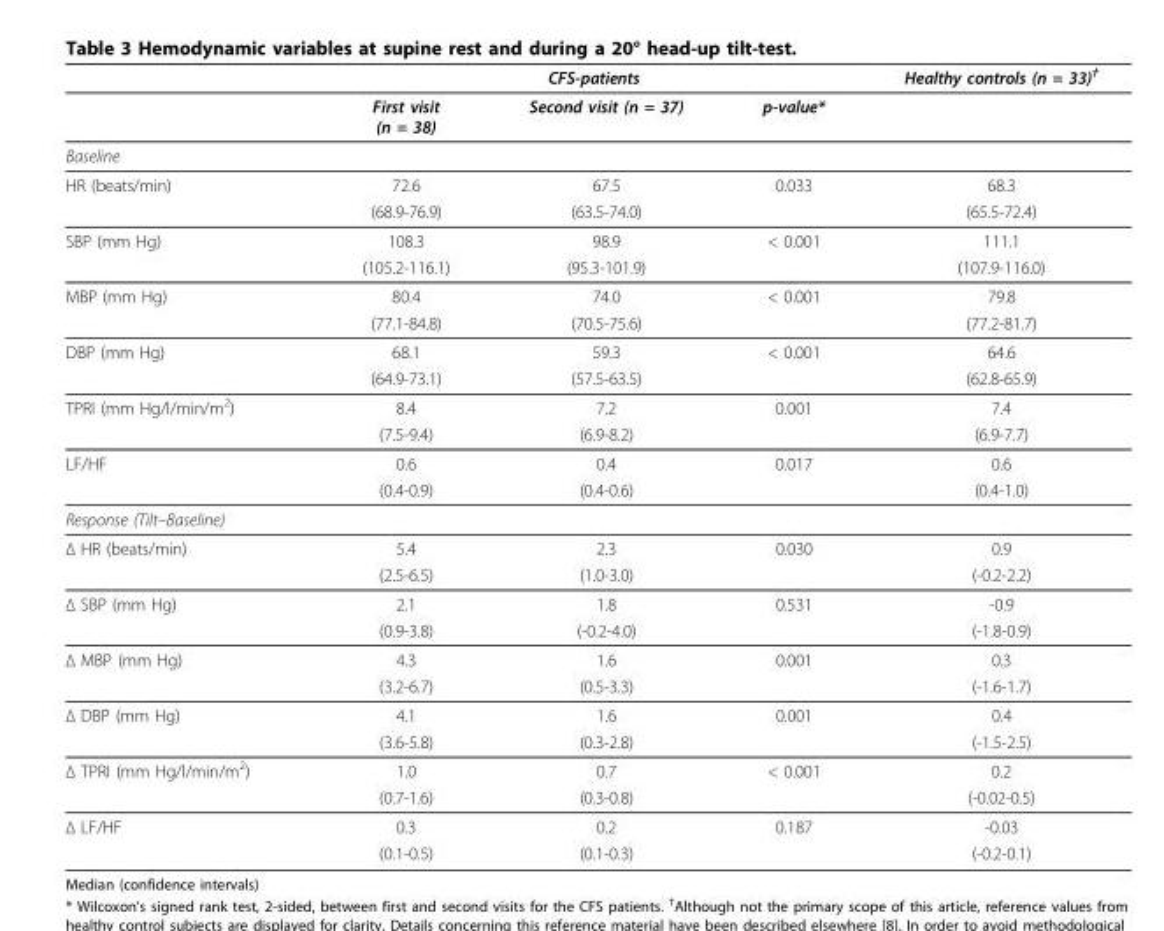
<table><thead><tr><td rowspan="2"></td><td colspan="3">CFS-patients</td><td rowspan="2">Healthy controls (n = 33)<sup>†</sup></td></tr><tr><td>First visit (n = 38)</td><td>Second visit (n = 37)</td><td>p-value*</td></tr></thead><tbody><tr><td colspan="5">Baseline</td></tr><tr><td rowspan="2">HR (beats/min)</td><td>72.6</td><td>67.5</td><td>0.033</td><td>68.3</td></tr><tr><td>(68.9-76.9)</td><td>(63.5-74.0)</td><td></td><td>(65.5-72.4)</td></tr><tr><td rowspan="2">SBP (mm Hg)</td><td>108.3</td><td>98.9</td><td>&lt; 0.001</td><td>111.1</td></tr><tr><td>(105.2-116.1)</td><td>(95.3-101.9)</td><td></td><td>(107.9-116.0)</td></tr><tr><td rowspan="2">MBP (mm Hg)</td><td>80.4</td><td>74.0</td><td>&lt; 0.001</td><td>79.8</td></tr><tr><td>(77.1-84.8)</td><td>(70.5-75.6)</td><td></td><td>(77.2-81.7)</td></tr><tr><td rowspan="2">DBP (mm Hg)</td><td>68.1</td><td>59.3</td><td>&lt; 0.001</td><td>64.6</td></tr><tr><td>(64.9-73.1)</td><td>(57.5-63.5)</td><td></td><td>(62.8-65.9)</td></tr><tr><td rowspan="2">TPRI (mm Hg/l/min/m<sup>2</sup>)</td><td>8.4</td><td>7.2</td><td>0.001</td><td>7.4</td></tr><tr><td>(7.5-9.4)</td><td>(6.9-8.2)</td><td></td><td>(6.9-7.7)</td></tr><tr><td rowspan="2">LF/HF</td><td>0.6</td><td>0.4</td><td>0.017</td><td>0.6</td></tr><tr><td>(0.4-0.9)</td><td>(0.4-0.6)</td><td></td><td>(0.4-1.0)</td></tr><tr><td colspan="5">Response (Tilt–Baseline)</td></tr><tr><td rowspan="2">Δ HR (beats/min)</td><td>5.4</td><td>2.3</td><td>0.030</td><td>0.9</td></tr><tr><td>(2.5-6.5)</td><td>(1.0-3.0)</td><td></td><td>(-0.2-2.2)</td></tr><tr><td rowspan="2">Δ SBP (mm Hg)</td><td>2.1</td><td>1.8</td><td>0.531</td><td>-0.9</td></tr><tr><td>(0.9-3.8)</td><td>(-0.2-4.0)</td><td></td><td>(-1.8-0.9)</td></tr><tr><td rowspan="2">Δ MBP (mm Hg)</td><td>4.3</td><td>1.6</td><td>0.001</td><td>0.3</td></tr><tr><td>(3.2-6.7)</td><td>(0.5-3.3)</td><td></td><td>(-1.6-1.7)</td></tr><tr><td rowspan="2">Δ DBP (mm Hg)</td><td>4.1</td><td>1.6</td><td>0.001</td><td>0.4</td></tr><tr><td>(3.6-5.8)</td><td>(0.3-2.8)</td><td></td><td>(-1.5-2.5)</td></tr><tr><td rowspan="2">Δ TPRI (mm Hg/l/min/m2)</td><td>1.0</td><td>0.7</td><td>&lt; 0.001</td><td>0.2</td></tr><tr><td>(0.7-1.6)</td><td>(0.3-0.8)</td><td></td><td>(-0.02-0.5)</td></tr><tr><td rowspan="2">Δ LF/HF</td><td>0.3</td><td>0.2</td><td>0.187</td><td>-0.03</td></tr><tr><td>(0.1-0.5)</td><td>(0.1-0.3)</td><td></td><td>(-0.2-0.1)</td></tr></tbody></table>